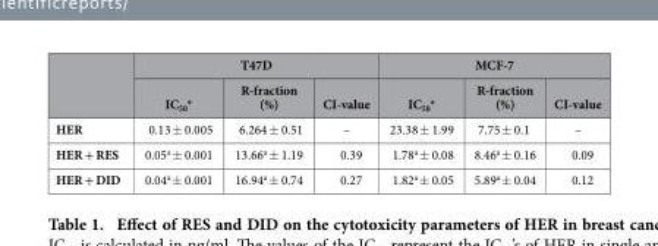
<table><thead><tr><td rowspan="2"></td><td colspan="3">T47D</td><td colspan="3">MCF-7</td></tr><tr><td>IC<sub>50</sub>*</td><td>R-fraction (%)</td><td>CI-value</td><td>IC<sub>50</sub>*</td><td>R-fraction (%)</td><td>CI-value</td></tr></thead><tbody><tr><td>HER</td><td>0.13 ± 0.005</td><td>6.264 ± 0.51</td><td>–</td><td>23.38 ± 1.99</td><td>7.75 ± 0.1</td><td>–</td></tr><tr><td>HER + RES</td><td>0.05<sup>a</sup> ± 0.001</td><td>13.66<sup>a</sup> ± 1.19</td><td>0.39</td><td>1.78<sup>a</sup> ± 0.08</td><td>8.46<sup>a</sup> ± 0.16</td><td>0.09</td></tr><tr><td>HER + DID</td><td>0.04<sup>a</sup> ± 0.001</td><td>16.94<sup>a</sup> ± 0.74</td><td>0.27</td><td>1.82<sup>a</sup> ± 0.05</td><td>5.89<sup>a</sup> ± 0.04</td><td>0.12</td></tr></tbody></table>